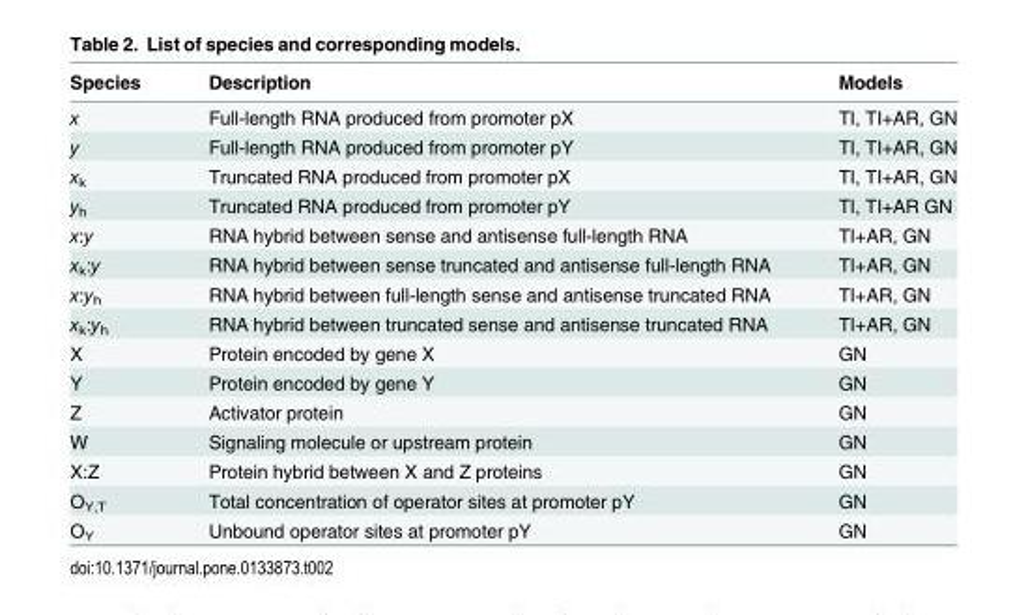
<table><thead><tr><td>Species</td><td>Description</td><td>Models</td></tr></thead><tbody><tr><td>x</td><td>Full-length RNA produced from promoter pX</td><td>TI, TI+AR, GN</td></tr><tr><td>y</td><td>Full-length RNA produced from promoter pY</td><td>TI, TI+AR, GN</td></tr><tr><td>x<sub>k</sub></td><td>Truncated RNA produced from promoter pX</td><td>TI, TI+AR, GN</td></tr><tr><td>y<sub>h</sub></td><td>Truncated RNA produced from promoter pY</td><td>TI, TI+AR GN</td></tr><tr><td>x:y</td><td>RNA hybrid between sense and antisense full-length RNA</td><td>TI+AR, GN</td></tr><tr><td>x<sub>k</sub>:y</td><td>RNA hybrid between sense truncated and antisense full-length RNA</td><td>TI+AR, GN</td></tr><tr><td>x:y<sub>h</sub></td><td>RNA hybrid between full-length sense and antisense truncated RNA</td><td>TI+AR, GN</td></tr><tr><td>x<sub>k</sub>:y<sub>h</sub></td><td>RNA hybrid between truncated sense and antisense truncated RNA</td><td>TI+AR, GN</td></tr><tr><td>X</td><td>Protein encoded by gene X</td><td>GN</td></tr><tr><td>Y</td><td>Protein encoded by gene Y</td><td>GN</td></tr><tr><td>Z</td><td>Activator protein</td><td>GN</td></tr><tr><td>W</td><td>Signaling molecule or upstream protein</td><td>GN</td></tr><tr><td>X:Z</td><td>Protein hybrid between X and Z proteins</td><td>GN</td></tr><tr><td>O<sub>Y,T</sub></td><td>Total concentration of operator sites at promoter pY</td><td>GN</td></tr><tr><td>O<sub>Y</sub></td><td>Unbound operator sites at promoter pY</td><td>GN</td></tr></tbody></table>